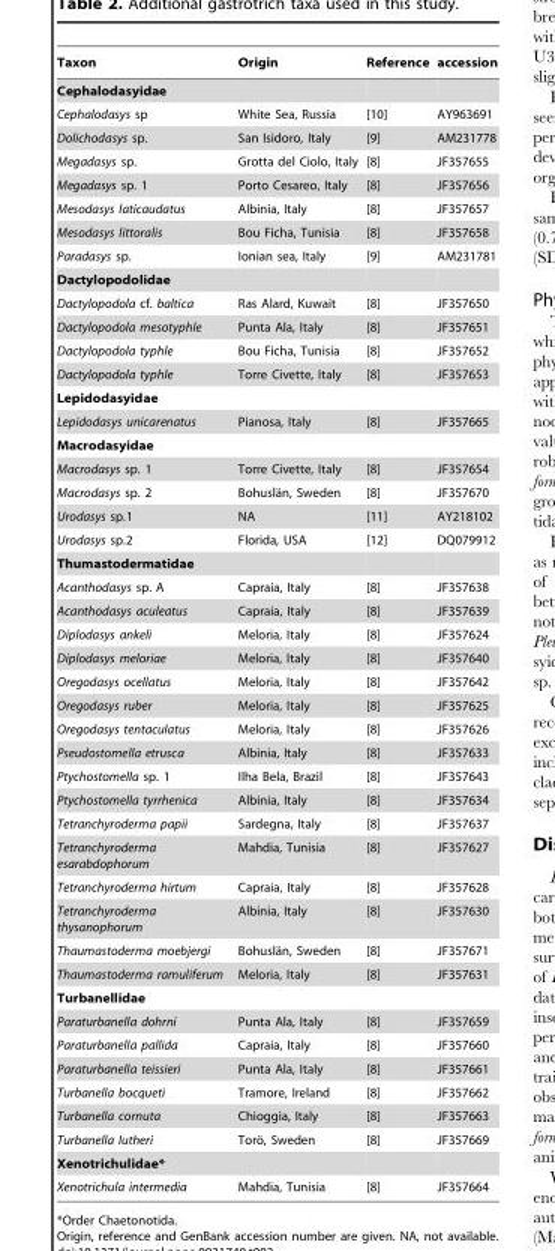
<table><thead><tr><td>Taxon</td><td>Origin</td><td>Reference</td><td>accession</td></tr></thead><tbody><tr><td colspan="4">Cephalodasyidae</td></tr><tr><td>Cephalodasys sp</td><td>White Sea, Russia</td><td>[10]</td><td>AY963691</td></tr><tr><td>Dolichodasys sp.</td><td>San Isidoro, Italy</td><td>[9]</td><td>AM231778</td></tr><tr><td>Megadasys sp.</td><td>Grotta del Ciolo, Italy</td><td>[8]</td><td>JF357655</td></tr><tr><td>Megadasys sp. 1</td><td>Porto Cesareo, Italy</td><td>[8]</td><td>JF357656</td></tr><tr><td>Mesodasys laticaudatus</td><td>Albinia, Italy</td><td>[8]</td><td>JF357657</td></tr><tr><td>Mesodasys littoralis</td><td>Bou Ficha, Tunisia</td><td>[8]</td><td>JF357658</td></tr><tr><td>Paradasys sp.</td><td>Ionian sea, Italy</td><td>[9]</td><td>AM231781</td></tr><tr><td colspan="4">Dactylopodolidae</td></tr><tr><td>Dactylopodola cf. baltica</td><td>Ras Alard, Kuwait</td><td>[8]</td><td>JF357650</td></tr><tr><td>Dactylopodola mesotyphle</td><td>Punta Ala, Italy</td><td>[8]</td><td>JF357651</td></tr><tr><td>Dactylopodola typhle</td><td>Bou Ficha, Tunisia</td><td>[8]</td><td>JF357652</td></tr><tr><td>Dactylopodola typhle</td><td>Torre Civette, Italy</td><td>[8]</td><td>JF357653</td></tr><tr><td colspan="4">Lepidodasyidae</td></tr><tr><td>Lepidodasys unicarenatus</td><td>Pianosa, Italy</td><td>[8]</td><td>JF357665</td></tr><tr><td colspan="4">Macrodasyidae</td></tr><tr><td>Macrodasys sp. 1</td><td>Torre Civette, Italy</td><td>[8]</td><td>JF357654</td></tr><tr><td>Macrodasys sp. 2</td><td>Bohusla¨n, Sweden</td><td>[8]</td><td>JF357670</td></tr><tr><td>Urodasys sp.1</td><td>NA</td><td>[11]</td><td>AY218102</td></tr><tr><td>Urodasys sp.2</td><td>Florida, USA</td><td>[12]</td><td>DQ079912</td></tr><tr><td colspan="4">Thumastodermatidae</td></tr><tr><td>Acanthodasys sp. A</td><td>Capraia, Italy</td><td>[8]</td><td>JF357638</td></tr><tr><td>Acanthodasys aculeatus</td><td>Capraia, Italy</td><td>[8]</td><td>JF357639</td></tr><tr><td>Diplodasys ankeli</td><td>Meloria, Italy</td><td>[8]</td><td>JF357624</td></tr><tr><td>Diplodasys meloriae</td><td>Meloria, Italy</td><td>[8]</td><td>JF357640</td></tr><tr><td>Oregodasys ocellatus</td><td>Meloria, Italy</td><td>[8]</td><td>JF357642</td></tr><tr><td>Oregodasys ruber</td><td>Meloria, Italy</td><td>[8]</td><td>JF357625</td></tr><tr><td>Oregodasys tentaculatus</td><td>Meloria, Italy</td><td>[8]</td><td>JF357626</td></tr><tr><td>Pseudostomella etrusca</td><td>Albinia, Italy</td><td>[8]</td><td>JF357633</td></tr><tr><td>Ptychostomella sp. 1</td><td>Ilha Bela, Brazil</td><td>[8]</td><td>JF357643</td></tr><tr><td>Ptychostomella tyrrhenica</td><td>Albinia, Italy</td><td>[8]</td><td>JF357634</td></tr><tr><td>Tetranchyroderma papii</td><td>Sardegna, Italy</td><td>[8]</td><td>JF357637</td></tr><tr><td>Tetranchyroderma esarabdophorum</td><td>Mahdia, Tunisia</td><td>[8]</td><td>JF357627</td></tr><tr><td>Tetranchyroderma hirtum</td><td>Capraia, Italy</td><td>[8]</td><td>JF357628</td></tr><tr><td>Tetranchyroderma thysanophorum</td><td>Albinia, Italy</td><td>[8]</td><td>JF357630</td></tr><tr><td>Thaumastoderma moebjergi</td><td>Bohusla¨n, Sweden</td><td>[8]</td><td>JF357671</td></tr><tr><td>Thaumastoderma ramuliferum</td><td>Meloria, Italy</td><td>[8]</td><td>JF357631</td></tr><tr><td colspan="4">Turbanellidae</td></tr><tr><td>Paraturbanella dohrni</td><td>Punta Ala, Italy</td><td>[8]</td><td>JF357659</td></tr><tr><td>Paraturbanella pallida</td><td>Capraia, Italy</td><td>[8]</td><td>JF357660</td></tr><tr><td>Paraturbanella teissieri</td><td>Punta Ala, Italy</td><td>[8]</td><td>JF357661</td></tr><tr><td>Turbanella bocqueti</td><td>Tramore, Ireland</td><td>[8]</td><td>JF357662</td></tr><tr><td>Turbanella cornuta</td><td>Chioggia, Italy</td><td>[8]</td><td>JF357663</td></tr><tr><td>Turbanella lutheri</td><td>Toro¨, Sweden</td><td>[8]</td><td>JF357669</td></tr><tr><td colspan="4">Xenotrichulidae*</td></tr><tr><td>Xenotrichula intermedia</td><td>Mahdia, Tunisia</td><td>[8]</td><td>JF357664</td></tr></tbody></table>